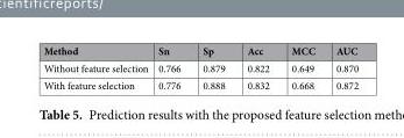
<table><thead><tr><td>Method</td><td>Sn</td><td>Sp</td><td>Acc</td><td>MCC</td><td>AUC</td></tr></thead><tbody><tr><td>Without feature selection</td><td>0.766</td><td>0.879</td><td>0.822</td><td>0.649</td><td>0.870</td></tr><tr><td>With feature selection</td><td>0.776</td><td>0.888</td><td>0.832</td><td>0.668</td><td>0.872</td></tr></tbody></table>